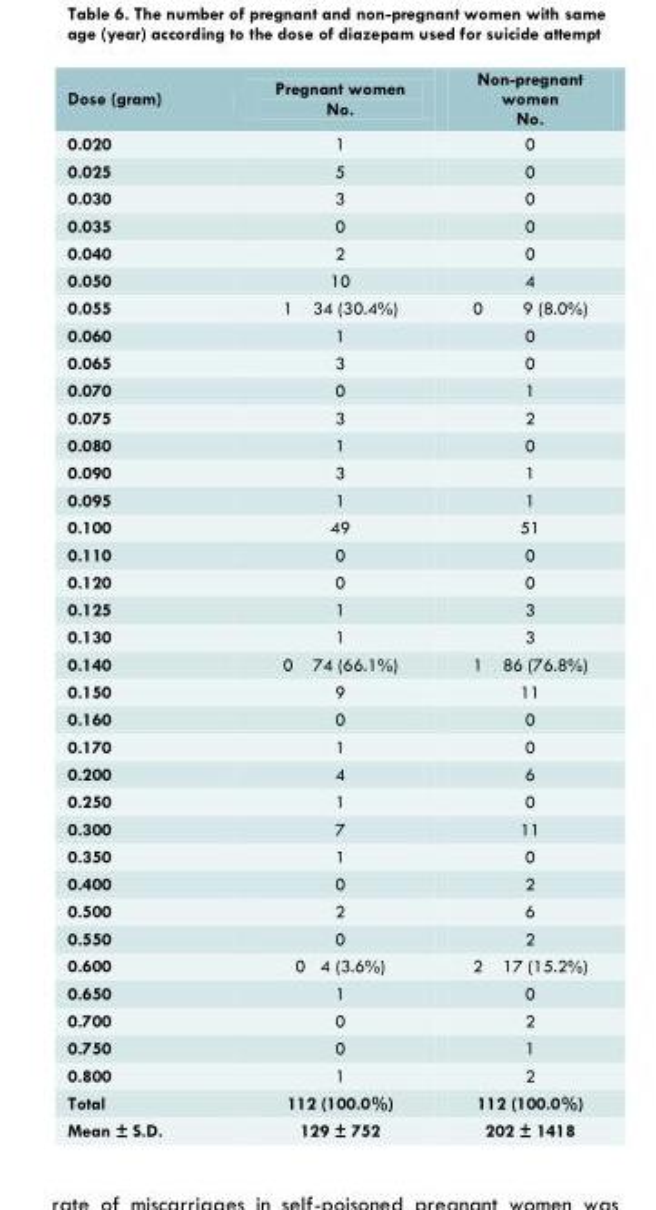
<table><thead><tr><td>Dose (gram)</td><td>Pregnant women No.</td><td>Non-pregnant women No.</td></tr></thead><tbody><tr><td>0.020</td><td>1</td><td>0</td></tr><tr><td>0.025</td><td>5</td><td>0</td></tr><tr><td>0.030</td><td>3</td><td>0</td></tr><tr><td>0.035</td><td>0</td><td>0</td></tr><tr><td>0.040</td><td>2</td><td>0</td></tr><tr><td>0.050</td><td>10</td><td>4</td></tr><tr><td>0.055</td><td>1 34 (30.4%)</td><td>0 9 (8.0%)</td></tr><tr><td>0.060</td><td>1</td><td>0</td></tr><tr><td>0.065</td><td>3</td><td>0</td></tr><tr><td>0.070</td><td>0</td><td>1</td></tr><tr><td>0.075</td><td>3</td><td>2</td></tr><tr><td>0.080</td><td>1</td><td>0</td></tr><tr><td>0.090</td><td>3</td><td>1</td></tr><tr><td>0.095</td><td>1</td><td>1</td></tr><tr><td>0.100</td><td>49</td><td>51</td></tr><tr><td>0.110</td><td>0</td><td>0</td></tr><tr><td>0.120</td><td>0</td><td>0</td></tr><tr><td>0.125</td><td>1</td><td>3</td></tr><tr><td>0.130</td><td>1</td><td>3</td></tr><tr><td>0.140</td><td>0 74 (66.1%)</td><td>1 86 (76.8%)</td></tr><tr><td>0.150</td><td>9</td><td>11</td></tr><tr><td>0.160</td><td>0</td><td>0</td></tr><tr><td>0.170</td><td>1</td><td>0</td></tr><tr><td>0.200</td><td>4</td><td>6</td></tr><tr><td>0.250</td><td>1</td><td>0</td></tr><tr><td>0.300</td><td>7</td><td>11</td></tr><tr><td>0.350</td><td>1</td><td>0</td></tr><tr><td>0.400</td><td>0</td><td>2</td></tr><tr><td>0.500</td><td>2</td><td>6</td></tr><tr><td>0.550</td><td>0</td><td>2</td></tr><tr><td>0.600</td><td>0 4 (3.6%)</td><td>2 17 (15.2%)</td></tr><tr><td>0.650</td><td>1</td><td>0</td></tr><tr><td>0.700</td><td>0</td><td>2</td></tr><tr><td>0.750</td><td>0</td><td>1</td></tr><tr><td>0.800</td><td>1</td><td>2</td></tr><tr><td>Total</td><td>112 (100.0%)</td><td>112 (100.0%)</td></tr><tr><td>Mean ± S.D.</td><td>129 ± 752</td><td>202 ± 1418</td></tr></tbody></table>